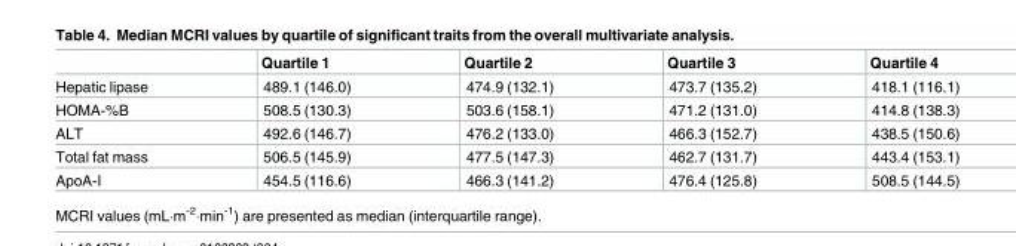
<table><thead><tr><td></td><td>Quartile 1</td><td>Quartile 2</td><td>Quartile 3</td><td>Quartile 4</td></tr></thead><tbody><tr><td>Hepatic lipase</td><td>489.1 (146.0)</td><td>474.9 (132.1)</td><td>473.7 (135.2)</td><td>418.1 (116.1)</td></tr><tr><td>HOMA-%B</td><td>508.5 (130.3)</td><td>503.6 (158.1)</td><td>471.2 (131.0)</td><td>414.8 (138.3)</td></tr><tr><td>ALT</td><td>492.6 (146.7)</td><td>476.2 (133.0)</td><td>466.3 (152.7)</td><td>438.5 (150.6)</td></tr><tr><td>Total fat mass</td><td>506.5 (145.9)</td><td>477.5 (147.3)</td><td>462.7 (131.7)</td><td>443.4 (153.1)</td></tr><tr><td>ApoA-I</td><td>454.5 (116.6)</td><td>466.3 (141.2)</td><td>476.4 (125.8)</td><td>508.5 (144.5)</td></tr></tbody></table>